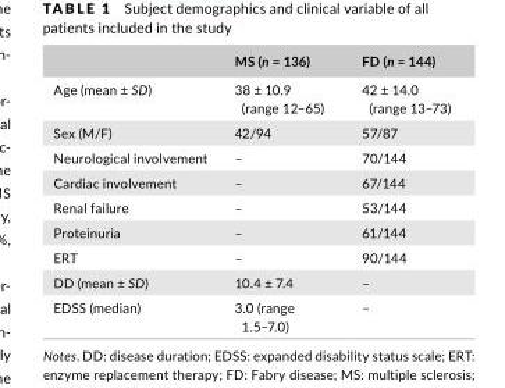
<table><thead><tr><td></td><td>MS (n = 136)</td><td>FD (n = 144)</td></tr></thead><tbody><tr><td>Age (mean ± SD)</td><td>38 ± 10.9 (range 12–65)</td><td>42 ± 14.0 (range 13–73)</td></tr><tr><td>Sex (M/F)</td><td>42/94</td><td>57/87</td></tr><tr><td>Neurological involvement</td><td>–</td><td>70/144</td></tr><tr><td>Cardiac involvement</td><td>–</td><td>67/144</td></tr><tr><td>Renal failure</td><td>–</td><td>53/144</td></tr><tr><td>Proteinuria</td><td>–</td><td>61/144</td></tr><tr><td>ERT</td><td>–</td><td>90/144</td></tr><tr><td>DD (mean ± SD)</td><td>10.4 ± 7.4</td><td>–</td></tr><tr><td>EDSS (median)</td><td>3.0 (range 1.5–7.0)</td><td>–</td></tr></tbody></table>